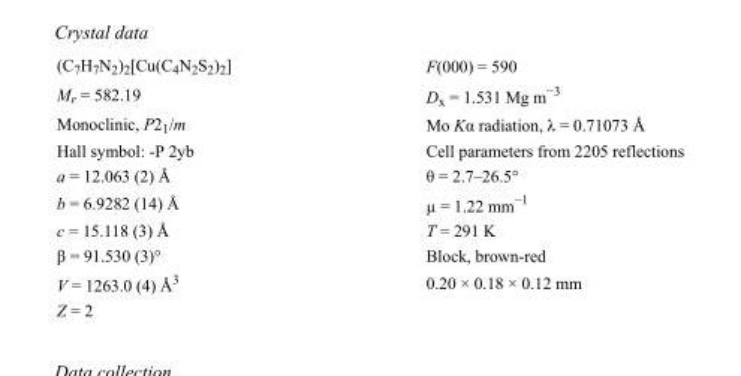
<table><tbody><tr><td>(C<sub>7</sub>H<sub>7</sub>N<sub>2</sub>)<sub>2</sub>[Cu(C<sub>4</sub>N<sub>2</sub>S<sub>2</sub>)<sub>2</sub>]</td><td>F(000) = 590</td></tr><tr><td>M<sub>r</sub> = 582.19</td><td>D<sub>x</sub> = 1.531 Mg m<sup>−3</sup></td></tr><tr><td>Monoclinic, P2<sub>1</sub>/m</td><td>Mo Kα radiation, λ = 0.71073 Å</td></tr><tr><td>Hall symbol: -P 2yb</td><td>Cell parameters from 2205 reflections</td></tr><tr><td>a = 12.063 (2) Å</td><td>θ = 2.7–26.5°</td></tr><tr><td>b = 6.9282 (14) Å</td><td>µ = 1.22 mm<sup>−1</sup></td></tr><tr><td>c = 15.118 (3) Å</td><td>T = 291 K</td></tr><tr><td>β = 91.530 (3)°</td><td>Block, brown-red</td></tr><tr><td>V = 1263.0 (4) Å<sup>3</sup></td><td>0.20 × 0.18 × 0.12 mm</td></tr><tr><td>Z = 2</td><td></td></tr></tbody></table>